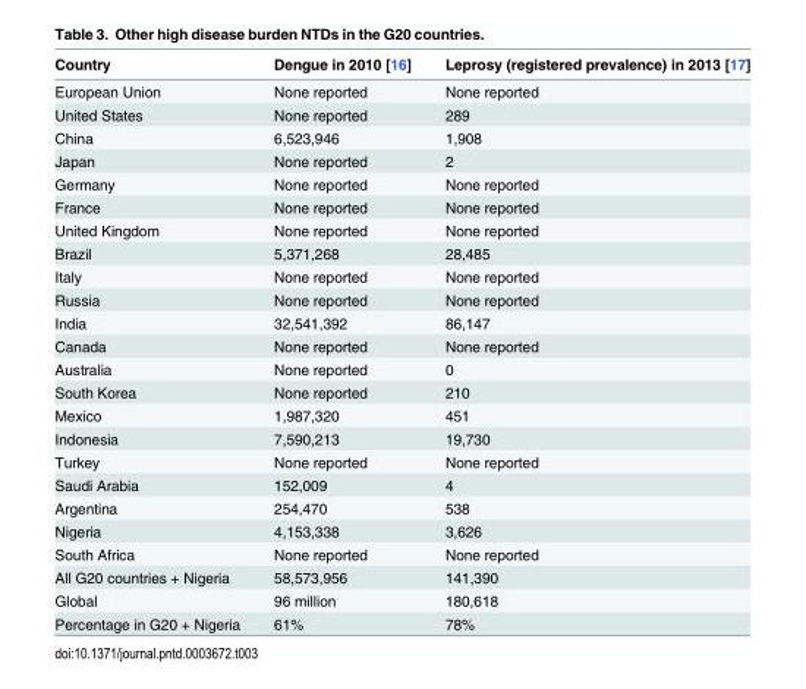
<table><thead><tr><td>Country</td><td>Dengue in 2010 [16]</td><td>Leprosy (registered prevalence) in 2013 [17]</td></tr></thead><tbody><tr><td>European Union</td><td>None reported</td><td>None reported</td></tr><tr><td>United States</td><td>None reported</td><td>289</td></tr><tr><td>China</td><td>6,523,946</td><td>1,908</td></tr><tr><td>Japan</td><td>None reported</td><td>2</td></tr><tr><td>Germany</td><td>None reported</td><td>None reported</td></tr><tr><td>France</td><td>None reported</td><td>None reported</td></tr><tr><td>United Kingdom</td><td>None reported</td><td>None reported</td></tr><tr><td>Brazil</td><td>5,371,268</td><td>28,485</td></tr><tr><td>Italy</td><td>None reported</td><td>None reported</td></tr><tr><td>Russia</td><td>None reported</td><td>None reported</td></tr><tr><td>India</td><td>32,541,392</td><td>86,147</td></tr><tr><td>Canada</td><td>None reported</td><td>None reported</td></tr><tr><td>Australia</td><td>None reported</td><td>0</td></tr><tr><td>South Korea</td><td>None reported</td><td>210</td></tr><tr><td>Mexico</td><td>1,987,320</td><td>451</td></tr><tr><td>Indonesia</td><td>7,590,213</td><td>19,730</td></tr><tr><td>Turkey</td><td>None reported</td><td>None reported</td></tr><tr><td>Saudi Arabia</td><td>152,009</td><td>4</td></tr><tr><td>Argentina</td><td>254,470</td><td>538</td></tr><tr><td>Nigeria</td><td>4,153,338</td><td>3,626</td></tr><tr><td>South Africa</td><td>None reported</td><td>None reported</td></tr><tr><td>All G20 countries + Nigeria</td><td>58,573,956</td><td>141,390</td></tr><tr><td>Global</td><td>96 million</td><td>180,618</td></tr><tr><td>Percentage in G20 + Nigeria</td><td>61%</td><td>78%</td></tr></tbody></table>